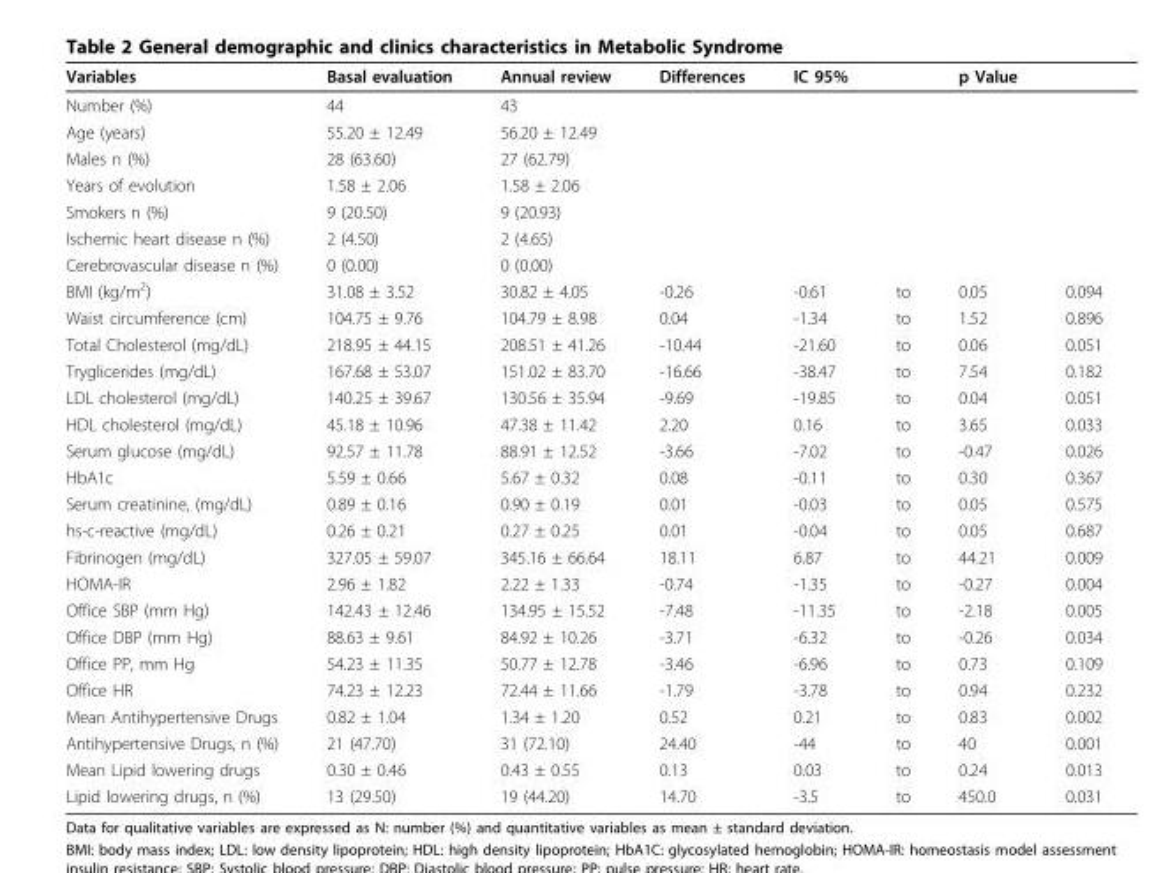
<table><thead><tr><td>Variables</td><td>Basal evaluation</td><td>Annual review</td><td>Differences</td><td>IC 95%</td><td></td><td>p Value</td><td></td></tr></thead><tbody><tr><td>Number (%)</td><td>44</td><td>43</td><td></td><td></td><td></td><td></td><td></td></tr><tr><td>Age (years)</td><td>55.20 ± 12.49</td><td>56.20 ± 12.49</td><td></td><td></td><td></td><td></td><td></td></tr><tr><td>Males n (%)</td><td>28 (63.60)</td><td>27 (62.79)</td><td></td><td></td><td></td><td></td><td></td></tr><tr><td>Years of evolution</td><td>1.58 ± 2.06</td><td>1.58 ± 2.06</td><td></td><td></td><td></td><td></td><td></td></tr><tr><td>Smokers n (%)</td><td>9 (20.50)</td><td>9 (20.93)</td><td></td><td></td><td></td><td></td><td></td></tr><tr><td>Ischemic heart disease n (%)</td><td>2 (4.50)</td><td>2 (4.65)</td><td></td><td></td><td></td><td></td><td></td></tr><tr><td>Cerebrovascular disease n (%)</td><td>0 (0.00)</td><td>0 (0.00)</td><td></td><td></td><td></td><td></td><td></td></tr><tr><td>BMI (kg/m<sup>2</sup>)</td><td>31.08 ± 3.52</td><td>30.82 ± 4.05</td><td>-0.26</td><td>-0.61</td><td>to</td><td>0.05</td><td>0.094</td></tr><tr><td>Waist circumference (cm)</td><td>104.75 ± 9.76</td><td>104.79 ± 8.98</td><td>0.04</td><td>-1.34</td><td>to</td><td>1.52</td><td>0.896</td></tr><tr><td>Total Cholesterol (mg/dL)</td><td>218.95 ± 44.15</td><td>208.51 ± 41.26</td><td>-10.44</td><td>-21.60</td><td>to</td><td>0.06</td><td>0.051</td></tr><tr><td>Tryglicerides (mg/dL)</td><td>167.68 ± 53.07</td><td>151.02 ± 83.70</td><td>-16.66</td><td>-38.47</td><td>to</td><td>7.54</td><td>0.182</td></tr><tr><td>LDL cholesterol (mg/dL)</td><td>140.25 ± 39.67</td><td>130.56 ± 35.94</td><td>-9.69</td><td>-19.85</td><td>to</td><td>0.04</td><td>0.051</td></tr><tr><td>HDL cholesterol (mg/dL)</td><td>45.18 ± 10.96</td><td>47.38 ± 11.42</td><td>2.20</td><td>0.16</td><td>to</td><td>3.65</td><td>0.033</td></tr><tr><td>Serum glucose (mg/dL)</td><td>92.57 ± 11.78</td><td>88.91 ± 12.52</td><td>-3.66</td><td>-7.02</td><td>to</td><td>-0.47</td><td>0.026</td></tr><tr><td>HbA1c</td><td>5.59 ± 0.66</td><td>5.67 ± 0.32</td><td>0.08</td><td>-0.11</td><td>to</td><td>0.30</td><td>0.367</td></tr><tr><td>Serum creatinine, (mg/dL)</td><td>0.89 ± 0.16</td><td>0.90 ± 0.19</td><td>0.01</td><td>-0.03</td><td>to</td><td>0.05</td><td>0.575</td></tr><tr><td>hs-c-reactive (mg/dL)</td><td>0.26 ± 0.21</td><td>0.27 ± 0.25</td><td>0.01</td><td>-0.04</td><td>to</td><td>0.05</td><td>0.687</td></tr><tr><td>Fibrinogen (mg/dL)</td><td>327.05 ± 59.07</td><td>345.16 ± 66.64</td><td>18.11</td><td>6.87</td><td>to</td><td>44.21</td><td>0.009</td></tr><tr><td>HOMA-IR</td><td>2.96 ± 1.82</td><td>2.22 ± 1.33</td><td>-0.74</td><td>-1.35</td><td>to</td><td>-0.27</td><td>0.004</td></tr><tr><td>Office SBP (mm Hg)</td><td>142.43 ± 12.46</td><td>134.95 ± 15.52</td><td>-7.48</td><td>-11.35</td><td>to</td><td>-2.18</td><td>0.005</td></tr><tr><td>Office DBP (mm Hg)</td><td>88.63 ± 9.61</td><td>84.92 ± 10.26</td><td>-3.71</td><td>-6.32</td><td>to</td><td>-0.26</td><td>0.034</td></tr><tr><td>Office PP, mm Hg</td><td>54.23 ± 11.35</td><td>50.77 ± 12.78</td><td>-3.46</td><td>-6.96</td><td>to</td><td>0.73</td><td>0.109</td></tr><tr><td>Office HR</td><td>74.23 ± 12.23</td><td>72.44 ± 11.66</td><td>-1.79</td><td>-3.78</td><td>to</td><td>0.94</td><td>0.232</td></tr><tr><td>Mean Antihypertensive Drugs</td><td>0.82 ± 1.04</td><td>1.34 ± 1.20</td><td>0.52</td><td>0.21</td><td>to</td><td>0.83</td><td>0.002</td></tr><tr><td>Antihypertensive Drugs, n (%)</td><td>21 (47.70)</td><td>31 (72.10)</td><td>24.40</td><td>-44</td><td>to</td><td>40</td><td>0.001</td></tr><tr><td>Mean Lipid lowering drugs</td><td>0.30 ± 0.46</td><td>0.43 ± 0.55</td><td>0.13</td><td>0.03</td><td>to</td><td>0.24</td><td>0.013</td></tr><tr><td>Lipid lowering drugs, n (%)</td><td>13 (29.50)</td><td>19 (44.20)</td><td>14.70</td><td>-3.5</td><td>to</td><td>450.0</td><td>0.031</td></tr></tbody></table>